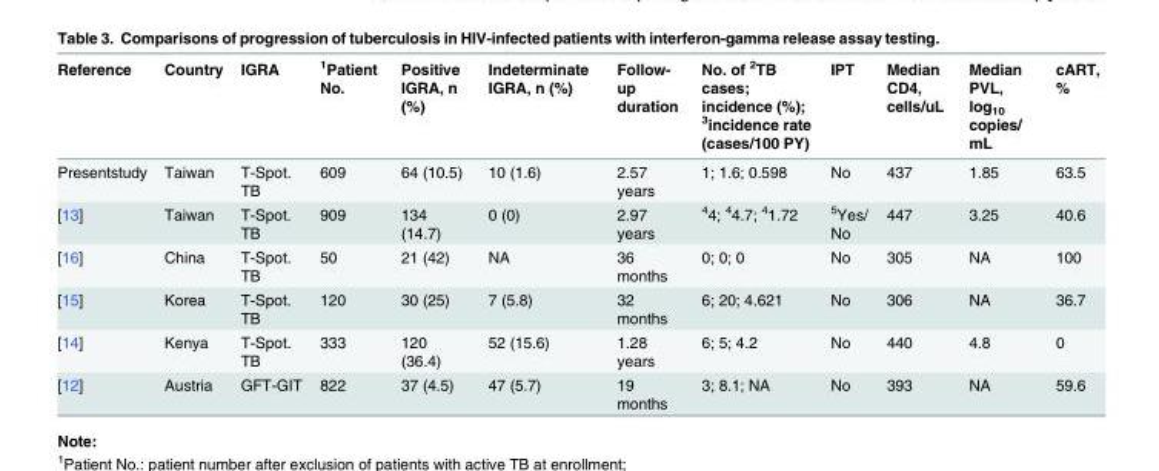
<table><thead><tr><td>Reference</td><td>Country</td><td>IGRA</td><td><sup>1</sup>Patient No.</td><td>Positive IGRA, n (%)</td><td>Indeterminate IGRA, n (%)</td><td>Follow- up duration</td><td>No. of <sup>2</sup>TB cases; incidence (%); <sup>3</sup>incidence rate (cases/100 PY)</td><td>IPT</td><td>Median CD4, cells/uL</td><td>Median PVL, log<sub>10</sub> copies/ mL</td><td>cART, %</td></tr></thead><tbody><tr><td>Presentstudy</td><td>Taiwan</td><td>T-Spot. TB</td><td>609</td><td>64 (10.5)</td><td>10 (1.6)</td><td>2.57 years</td><td>1; 1.6; 0.598</td><td>No</td><td>437</td><td>1.85</td><td>63.5</td></tr><tr><td>[13]</td><td>Taiwan</td><td>T-Spot. TB</td><td>909</td><td>134 (14.7)</td><td>0 (0)</td><td>2.97 years</td><td><sup>4</sup>4; <sup>4</sup>4.7; <sup>4</sup>1.72</td><td><sup>5</sup>Yes/ No</td><td>447</td><td>3.25</td><td>40.6</td></tr><tr><td>[16]</td><td>China</td><td>T-Spot. TB</td><td>50</td><td>21 (42)</td><td>NA</td><td>36 months</td><td>0; 0; 0</td><td>No</td><td>305</td><td>NA</td><td>100</td></tr><tr><td>[15]</td><td>Korea</td><td>T-Spot. TB</td><td>120</td><td>30 (25)</td><td>7 (5.8)</td><td>32 months</td><td>6; 20; 4.621</td><td>No</td><td>306</td><td>NA</td><td>36.7</td></tr><tr><td>[14]</td><td>Kenya</td><td>T-Spot. TB</td><td>333</td><td>120 (36.4)</td><td>52 (15.6)</td><td>1.28 years</td><td>6; 5; 4.2</td><td>No</td><td>440</td><td>4.8</td><td>0</td></tr><tr><td>[12]</td><td>Austria</td><td>GFT-GIT</td><td>822</td><td>37 (4.5)</td><td>47 (5.7)</td><td>19 months</td><td>3; 8.1; NA</td><td>No</td><td>393</td><td>NA</td><td>59.6</td></tr></tbody></table>